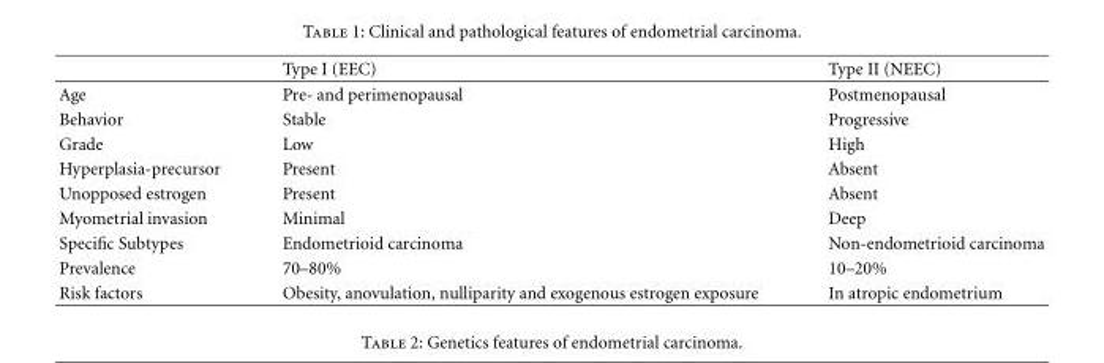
<table><thead><tr><td></td><td>Type I (EEC)</td><td>Type II (NEEC)</td></tr></thead><tbody><tr><td>Age</td><td>Pre- and perimenopausal</td><td>Postmenopausal</td></tr><tr><td>Behavior</td><td>Stable</td><td>Progressive</td></tr><tr><td>Grade</td><td>Low</td><td>High</td></tr><tr><td>Hyperplasia-precursor</td><td>Present</td><td>Absent</td></tr><tr><td>Unopposed estrogen</td><td>Present</td><td>Absent</td></tr><tr><td>Myometrial invasion</td><td>Minimal</td><td>Deep</td></tr><tr><td>Specific Subtypes</td><td>Endometrioid carcinoma</td><td>Non-endometrioid carcinoma</td></tr><tr><td>Prevalence</td><td>70–80%</td><td>10–20%</td></tr><tr><td>Risk factors</td><td>Obesity, anovulation, nulliparity and exogenous estrogen exposure</td><td>In atropic endometrium</td></tr></tbody></table>